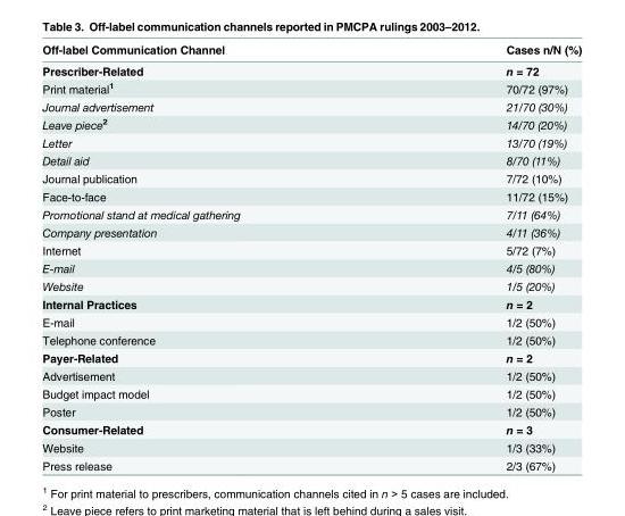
<table><thead><tr><td>Off-label Communication Channel</td><td>Cases n/N (%)</td></tr></thead><tbody><tr><td>Prescriber-Related</td><td>n = 72</td></tr><tr><td>Print material<sup>1</sup></td><td>70/72 (97%)</td></tr><tr><td>Journal advertisement</td><td>21/70 (30%)</td></tr><tr><td>Leave piece<sup>2</sup></td><td>14/70 (20%)</td></tr><tr><td>Letter</td><td>13/70 (19%)</td></tr><tr><td>Detail aid</td><td>8/70 (11%)</td></tr><tr><td>Journal publication</td><td>7/72 (10%)</td></tr><tr><td>Face-to-face</td><td>11/72 (15%)</td></tr><tr><td>Promotional stand at medical gathering</td><td>7/11 (64%)</td></tr><tr><td>Company presentation</td><td>4/11 (36%)</td></tr><tr><td>Internet</td><td>5/72 (7%)</td></tr><tr><td>E-mail</td><td>4/5 (80%)</td></tr><tr><td>Website</td><td>1/5 (20%)</td></tr><tr><td>Internal Practices</td><td>n = 2</td></tr><tr><td>E-mail</td><td>1/2 (50%)</td></tr><tr><td>Telephone conference</td><td>1/2 (50%)</td></tr><tr><td>Payer-Related</td><td>n = 2</td></tr><tr><td>Advertisement</td><td>1/2 (50%)</td></tr><tr><td>Budget impact model</td><td>1/2 (50%)</td></tr><tr><td>Poster</td><td>1/2 (50%)</td></tr><tr><td>Consumer-Related</td><td>n = 3</td></tr><tr><td>Website</td><td>1/3 (33%)</td></tr><tr><td>Press release</td><td>2/3 (67%)</td></tr></tbody></table>